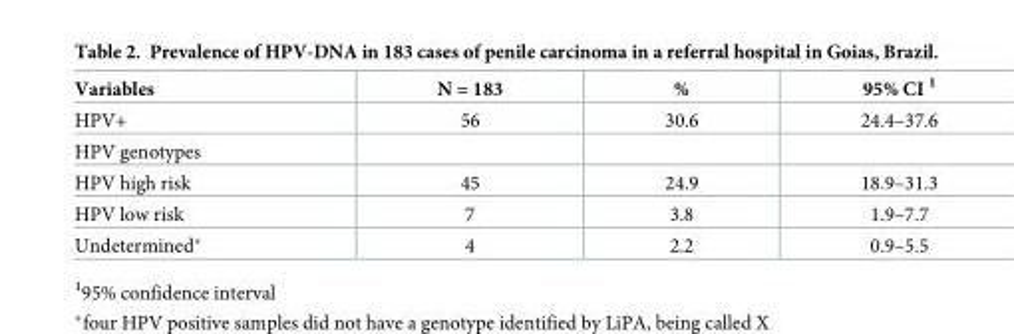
<table><thead><tr><td>Variables</td><td>N = 183</td><td>%</td><td>95% CI <sup>1</sup></td></tr></thead><tbody><tr><td>HPV+</td><td>56</td><td>30.6</td><td>24.4–37.6</td></tr><tr><td colspan="4">HPV genotypes</td></tr><tr><td>HPV high risk</td><td>45</td><td>24.9</td><td>18.9–31.3</td></tr><tr><td>HPV low risk</td><td>7</td><td>3.8</td><td>1.9–7.7</td></tr><tr><td>Undetermined*</td><td>4</td><td>2.2</td><td>0.9–5.5</td></tr></tbody></table>